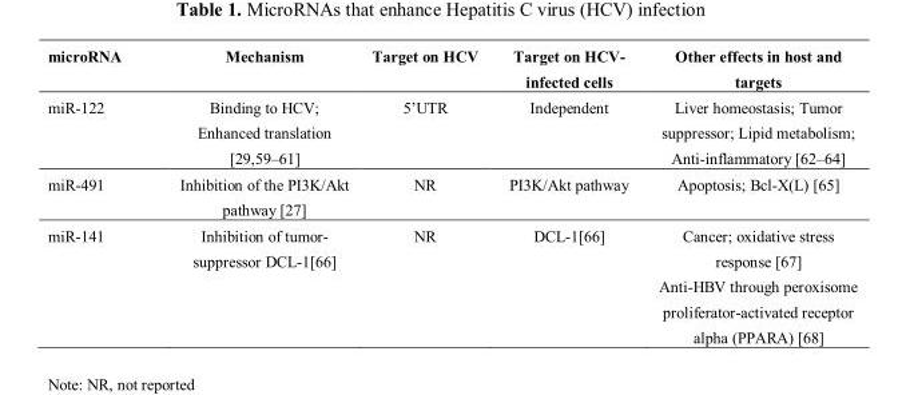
<table><thead><tr><td>microRNA</td><td>Mechanism</td><td>Target on HCV</td><td>Target on HCV- infected cells</td><td>Other effects in host and targets</td></tr></thead><tbody><tr><td>miR-122</td><td>Binding to HCV; Enhanced translation [29,59–61]</td><td>5’UTR</td><td>Independent</td><td>Liver homeostasis; Tumor suppressor; Lipid metabolism; Anti-inflammatory [62–64]</td></tr><tr><td>miR-491</td><td>Inhibition of the PI3K/Akt pathway [27]</td><td>NR</td><td>PI3K/Akt pathway</td><td>Apoptosis; Bcl-X(L) [65]</td></tr><tr><td rowspan="2">miR-141</td><td rowspan="2">Inhibition of tumor- suppressor DCL-1[66]</td><td rowspan="2">NR</td><td rowspan="2">DCL-1[66]</td><td>Cancer; oxidative stress response [67]</td></tr><tr><td>Anti-HBV through peroxisome proliferator-activated receptor alpha (PPARA) [68]</td></tr></tbody></table>